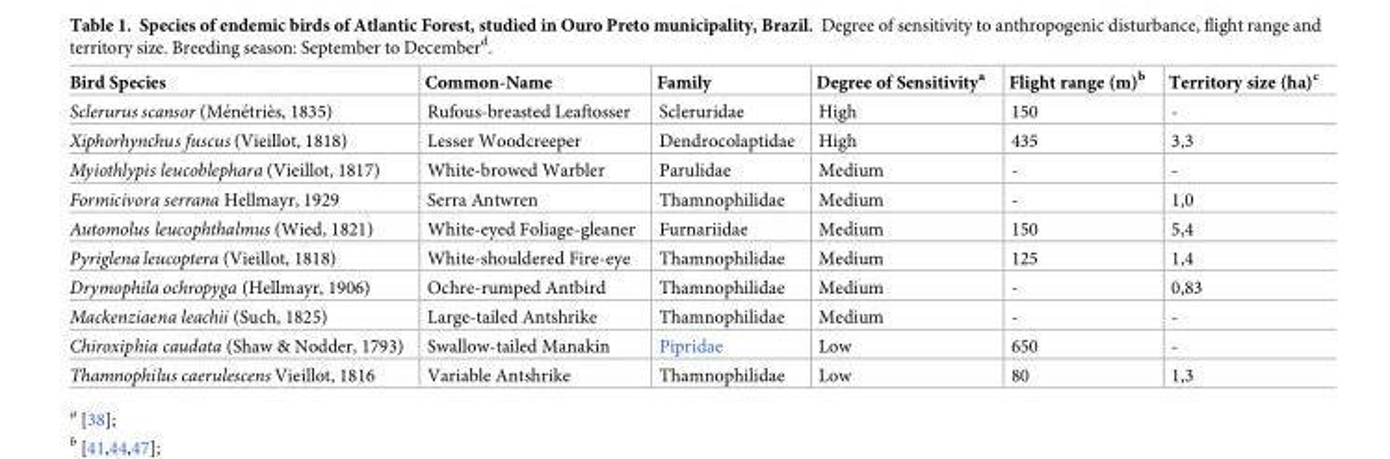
<table><thead><tr><td>Bird Species</td><td>Common-Name</td><td>Family</td><td>Degree of Sensitivity<sup>a</sup></td><td>Flight range (m)<sup>b</sup></td><td>Territory size (ha)<sup>c</sup></td></tr></thead><tbody><tr><td>Sclerurus scansor (Me´ne´triès, 1835)</td><td>Rufous-breasted Leaftosser</td><td>Scleruridae</td><td>High</td><td>150</td><td>-</td></tr><tr><td>Xiphorhynchus fuscus (Vieillot, 1818)</td><td>Lesser Woodcreeper</td><td>Dendrocolaptidae</td><td>High</td><td>435</td><td>3,3</td></tr><tr><td>Myiothlypis leucoblephara (Vieillot, 1817)</td><td>White-browed Warbler</td><td>Parulidae</td><td>Medium</td><td>-</td><td>-</td></tr><tr><td>Formicivora serrana Hellmayr, 1929</td><td>Serra Antwren</td><td>Thamnophilidae</td><td>Medium</td><td>-</td><td>1,0</td></tr><tr><td>Automolus leucophthalmus (Wied, 1821)</td><td>White-eyed Foliage-gleaner</td><td>Furnariidae</td><td>Medium</td><td>150</td><td>5,4</td></tr><tr><td>Pyriglena leucoptera (Vieillot, 1818)</td><td>White-shouldered Fire-eye</td><td>Thamnophilidae</td><td>Medium</td><td>125</td><td>1,4</td></tr><tr><td>Drymophila ochropyga (Hellmayr, 1906)</td><td>Ochre-rumped Antbird</td><td>Thamnophilidae</td><td>Medium</td><td>-</td><td>0,83</td></tr><tr><td>Mackenziaena leachii (Such, 1825)</td><td>Large-tailed Antshrike</td><td>Thamnophilidae</td><td>Medium</td><td>-</td><td>-</td></tr><tr><td>Chiroxiphia caudata (Shaw &amp; Nodder, 1793)</td><td>Swallow-tailed Manakin</td><td>Pipridae</td><td>Low</td><td>650</td><td>-</td></tr><tr><td>Thamnophilus caerulescens Vieillot, 1816</td><td>Variable Antshrike</td><td>Thamnophilidae</td><td>Low</td><td>80</td><td>1,3</td></tr></tbody></table>